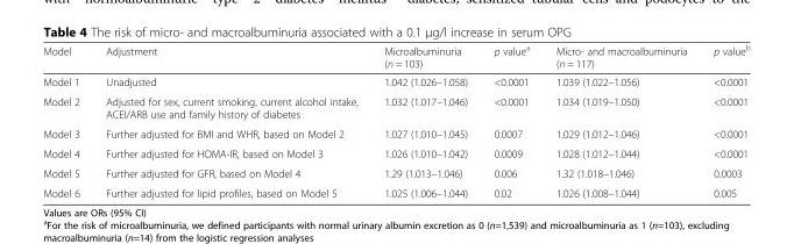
<table><thead><tr><td>Model</td><td>Adjustment</td><td>Microalbuminuria (n = 103)</td><td>p value<sup>a</sup></td><td>Micro- and macroalbuminuria (n = 117)</td><td>p value<sup>b</sup></td></tr></thead><tbody><tr><td>Model 1</td><td>Unadjusted</td><td>1.042 (1.026–1.058)</td><td>&lt;0.0001</td><td>1.039 (1.022–1.056)</td><td>&lt;0.0001</td></tr><tr><td>Model 2</td><td>Adjusted for sex, current smoking, current alcohol intake, ACEI/ARB use and family history of diabetes</td><td>1.032 (1.017–1.046)</td><td>&lt;0.0001</td><td>1.034 (1.019–1.050)</td><td>&lt;0.0001</td></tr><tr><td>Model 3</td><td>Further adjusted for BMI and WHR, based on Model 2</td><td>1.027 (1.010–1.045)</td><td>0.0007</td><td>1.029 (1.012–1.046)</td><td>&lt;0.0001</td></tr><tr><td>Model 4</td><td>Further adjusted for HOMA-IR, based on Model 3</td><td>1.026 (1.010–1.042)</td><td>0.0009</td><td>1.028 (1.012–1.044)</td><td>&lt;0.0001</td></tr><tr><td>Model 5</td><td>Further adjusted for GFR, based on Model 4</td><td>1.29 (1.013–1.046)</td><td>0.006</td><td>1.32 (1.018–1.046)</td><td>0.0003</td></tr><tr><td>Model 6</td><td>Further adjusted for lipid profiles, based on Model 5</td><td>1.025 (1.006–1.044)</td><td>0.02</td><td>1.026 (1.008–1.044)</td><td>0.005</td></tr></tbody></table>